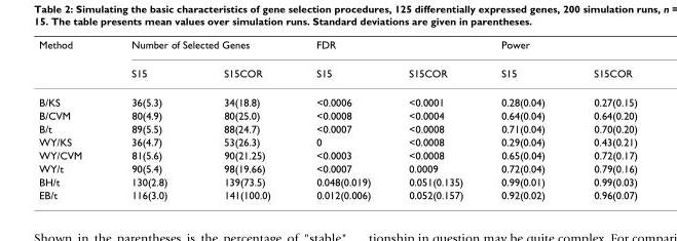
<table><thead><tr><td rowspan="2">Method</td><td colspan="2">Number of Selected Genes</td><td colspan="2">FDR</td><td colspan="2">Power</td></tr><tr><td>S15</td><td>S15COR</td><td>S15</td><td>S15COR</td><td>S15</td><td>S15COR</td></tr></thead><tbody><tr><td>B/KS</td><td>36(5.3)</td><td>34(18.8)</td><td>&lt;0.0006</td><td>&lt;0.0001</td><td>0.28(0.04)</td><td>0.27(0.15)</td></tr><tr><td>B/CVM</td><td>80(4.9)</td><td>80(25.0)</td><td>&lt;0.0008</td><td>&lt;0.0004</td><td>0.64(0.04)</td><td>0.64(0.20)</td></tr><tr><td>B/t</td><td>89(5.5)</td><td>88(24.7)</td><td>&lt;0.0007</td><td>&lt;0.0008</td><td>0.71(0.04)</td><td>0.70(0.20)</td></tr><tr><td>WY/KS</td><td>36(4.7)</td><td>53(26.3)</td><td>0</td><td>&lt;0.0008</td><td>0.29(0.04)</td><td>0.43(0.21)</td></tr><tr><td>WY/CVM</td><td>81(5.6)</td><td>90(21.25)</td><td>&lt;0.0003</td><td>&lt;0.0008</td><td>0.65(0.04)</td><td>0.72(0.17)</td></tr><tr><td>WY/t</td><td>90(5.4)</td><td>98(19.66)</td><td>&lt;0.0007</td><td>0.0009</td><td>0.72(0.04)</td><td>0.79(0.16)</td></tr><tr><td>BH/t</td><td>130(2.8)</td><td>139(73.5)</td><td>0.048(0.019)</td><td>0.051(0.135)</td><td>0.99(0.01)</td><td>0.99(0.03)</td></tr><tr><td>EB/t</td><td>116(3.0)</td><td>141(100.0)</td><td>0.012(0.006)</td><td>0.052(0.157)</td><td>0.92(0.02)</td><td>0.96(0.07)</td></tr></tbody></table>